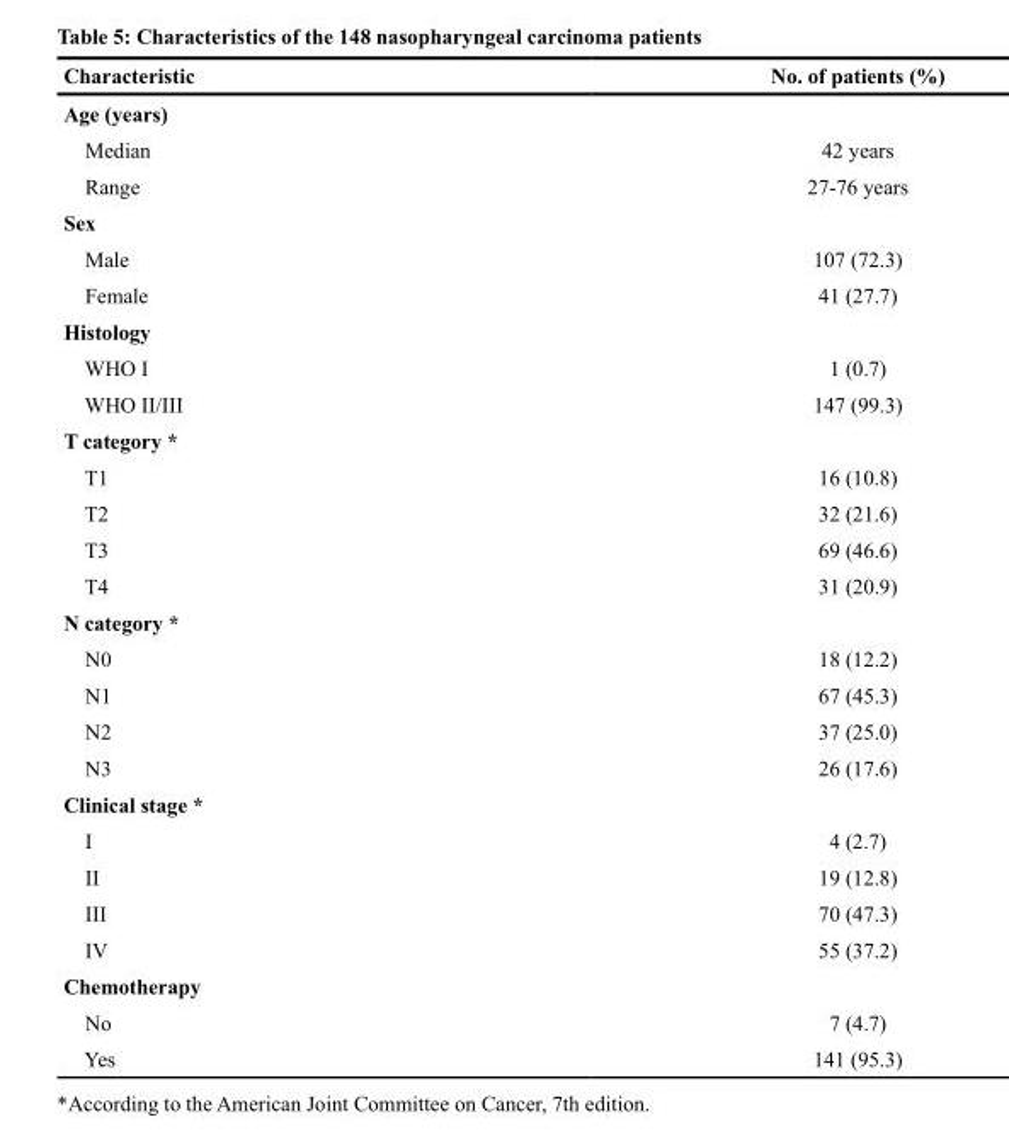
<table><thead><tr><td>Characteristic</td><td>No. of patients (%)</td></tr></thead><tbody><tr><td colspan="2">Age (years)</td></tr><tr><td>Median</td><td>42 years</td></tr><tr><td>Range</td><td>27-76 years</td></tr><tr><td colspan="2">Sex</td></tr><tr><td>Male</td><td>107 (72.3)</td></tr><tr><td>Female</td><td>41 (27.7)</td></tr><tr><td colspan="2">Histology</td></tr><tr><td>WHO I</td><td>1 (0.7)</td></tr><tr><td>WHO II/III</td><td>147 (99.3)</td></tr><tr><td colspan="2">T category *</td></tr><tr><td>T1</td><td>16 (10.8)</td></tr><tr><td>T2</td><td>32 (21.6)</td></tr><tr><td>T3</td><td>69 (46.6)</td></tr><tr><td>T4</td><td>31 (20.9)</td></tr><tr><td colspan="2">N category *</td></tr><tr><td>N0</td><td>18 (12.2)</td></tr><tr><td>N1</td><td>67 (45.3)</td></tr><tr><td>N2</td><td>37 (25.0)</td></tr><tr><td>N3</td><td>26 (17.6)</td></tr><tr><td colspan="2">Clinical stage *</td></tr><tr><td>I</td><td>4 (2.7)</td></tr><tr><td>II</td><td>19 (12.8)</td></tr><tr><td>III</td><td>70 (47.3)</td></tr><tr><td>IV</td><td>55 (37.2)</td></tr><tr><td colspan="2">Chemotherapy</td></tr><tr><td>No</td><td>7 (4.7)</td></tr><tr><td>Yes</td><td>141 (95.3)</td></tr></tbody></table>